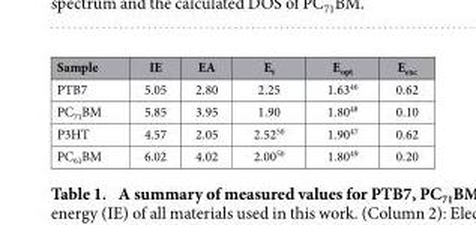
<table><thead><tr><td>Sample</td><td>IE</td><td>EA</td><td>E<sub>t</sub></td><td>E<sub>opt</sub></td><td>E<sub>exc</sub></td></tr></thead><tbody><tr><td>PTB7</td><td>5.05</td><td>2.80</td><td>2.25</td><td>1.63<sup>46</sup></td><td>0.62</td></tr><tr><td>PC<sub>71</sub>BM</td><td>5.85</td><td>3.95</td><td>1.90</td><td>1.80<sup>48</sup></td><td>0.10</td></tr><tr><td>P3HT</td><td>4.57</td><td>2.05</td><td>2.52<sup>50</sup></td><td>1.90<sup>47</sup></td><td>0.62</td></tr><tr><td>PC<sub>61</sub>BM</td><td>6.02</td><td>4.02</td><td>2.00<sup>50</sup></td><td>1.80<sup>49</sup></td><td>0.20</td></tr></tbody></table>